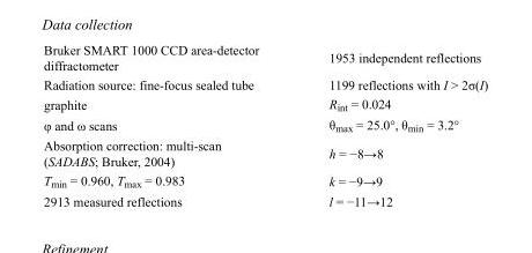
<table><tbody><tr><td>Bruker SMART 1000 CCD area-detector diffractometer</td><td>1953 independent reflections</td></tr><tr><td>Radiation source: fine-focus sealed tube</td><td>1199 reflections with I &gt; 2σ(I)</td></tr><tr><td>graphite</td><td>R<sub>int</sub> = 0.024</td></tr><tr><td>φ and ω scans</td><td>θ<sub>max</sub> = 25.0°, θ<sub>min</sub> = 3.2°</td></tr><tr><td>Absorption correction: multi-scan (SADABS; Bruker, 2004)</td><td>h = −8→8</td></tr><tr><td>T<sub>min</sub> = 0.960, T<sub>max</sub> = 0.983</td><td>k = −9→9</td></tr><tr><td>2913 measured reflections</td><td>l = −11→12</td></tr></tbody></table>